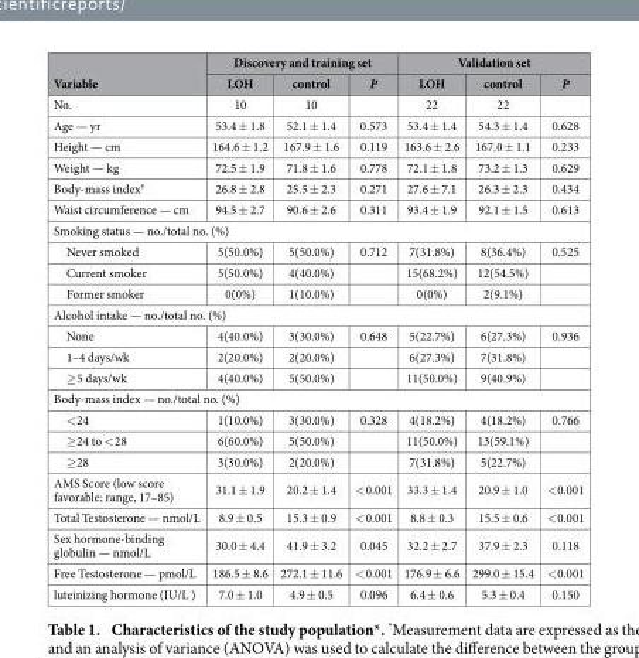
<table><thead><tr><td rowspan="2">Variable</td><td colspan="3">Discovery and training set</td><td colspan="3">Validation set</td></tr><tr><td>LOH</td><td>control</td><td>P</td><td>LOH</td><td>control</td><td>P</td></tr></thead><tbody><tr><td>No.</td><td>10</td><td>10</td><td></td><td>22</td><td>22</td><td></td></tr><tr><td>Age — yr</td><td>53.4 ± 1.8</td><td>52.1 ± 1.4</td><td>0.573</td><td>53.4 ± 1.4</td><td>54.3 ± 1.4</td><td>0.628</td></tr><tr><td>Height — cm</td><td>164.6 ± 1.2</td><td>167.9 ± 1.6</td><td>0.119</td><td>163.6 ± 2.6</td><td>167.0 ± 1.1</td><td>0.233</td></tr><tr><td>Weight — kg</td><td>72.5 ± 1.9</td><td>71.8 ± 1.6</td><td>0.778</td><td>72.1 ± 1.8</td><td>73.2 ± 1.3</td><td>0.629</td></tr><tr><td>Body-mass index†</td><td>26.8 ± 2.8</td><td>25.5 ± 2.3</td><td>0.271</td><td>27.6 ± 7.1</td><td>26.3 ± 2.3</td><td>0.434</td></tr><tr><td>Waist circumference — cm</td><td>94.5 ± 2.7</td><td>90.6 ± 2.6</td><td>0.311</td><td>93.4 ± 1.9</td><td>92.1 ± 1.5</td><td>0.613</td></tr><tr><td colspan="7">Smoking status — no./total no. (%)</td></tr><tr><td>Never smoked</td><td>5(50.0%)</td><td>5(50.0%)</td><td>0.712</td><td>7(31.8%)</td><td>8(36.4%)</td><td>0.525</td></tr><tr><td>Current smoker</td><td>5(50.0%)</td><td>4(40.0%)</td><td></td><td>15(68.2%)</td><td>12(54.5%)</td><td></td></tr><tr><td>Former smoker</td><td>0(0%)</td><td>1(10.0%)</td><td></td><td>0(0%)</td><td>2(9.1%)</td><td></td></tr><tr><td colspan="7">Alcohol intake — no./total no. (%)</td></tr><tr><td>None</td><td>4(40.0%)</td><td>3(30.0%)</td><td>0.648</td><td>5(22.7%)</td><td>6(27.3%)</td><td>0.936</td></tr><tr><td>1–4 days/wk</td><td>2(20.0%)</td><td>2(20.0%)</td><td></td><td>6(27.3%)</td><td>7(31.8%)</td><td></td></tr><tr><td>≥ 5 days/wk</td><td>4(40.0%)</td><td>5(50.0%)</td><td></td><td>11(50.0%)</td><td>9(40.9%)</td><td></td></tr><tr><td colspan="7">Body-mass index — no./total no. (%)</td></tr><tr><td>&lt; 24</td><td>1(10.0%)</td><td>3(30.0%)</td><td>0.328</td><td>4(18.2%)</td><td>4(18.2%)</td><td>0.766</td></tr><tr><td>≥ 24 to &lt; 28</td><td>6(60.0%)</td><td>5(50.0%)</td><td></td><td>11(50.0%)</td><td>13(59.1%)</td><td></td></tr><tr><td>≥ 28</td><td>3(30.0%)</td><td>2(20.0%)</td><td></td><td>7(31.8%)</td><td>5(22.7%)</td><td></td></tr><tr><td>AMS Score (low score favorable; range, 17–85)</td><td>31.1 ± 1.9</td><td>20.2 ± 1.4</td><td>&lt; 0.001</td><td>33.3 ± 1.4</td><td>20.9 ± 1.0</td><td>&lt; 0.001</td></tr><tr><td>Total Testosterone — nmol/L</td><td>8.9 ± 0.5</td><td>15.3 ± 0.9</td><td>&lt; 0.001</td><td>8.8 ± 0.3</td><td>15.5 ± 0.6</td><td>&lt; 0.001</td></tr><tr><td>Sex hormone-binding globulin — nmol/L</td><td>30.0 ± 4.4</td><td>41.9 ± 3.2</td><td>0.045</td><td>32.2 ± 2.7</td><td>37.9 ± 2.3</td><td>0.118</td></tr><tr><td>Free Testosterone — pmol/L</td><td>186.5 ± 8.6</td><td>272.1 ± 11.6</td><td>&lt; 0.001</td><td>176.9 ± 6.6</td><td>299.0 ± 15.4</td><td>&lt; 0.001</td></tr><tr><td>luteinizing hormone (IU/L )</td><td>7.0 ± 1.0</td><td>4.9 ± 0.5</td><td>0.096</td><td>6.4 ± 0.6</td><td>5.3 ± 0.4</td><td>0.150</td></tr></tbody></table>